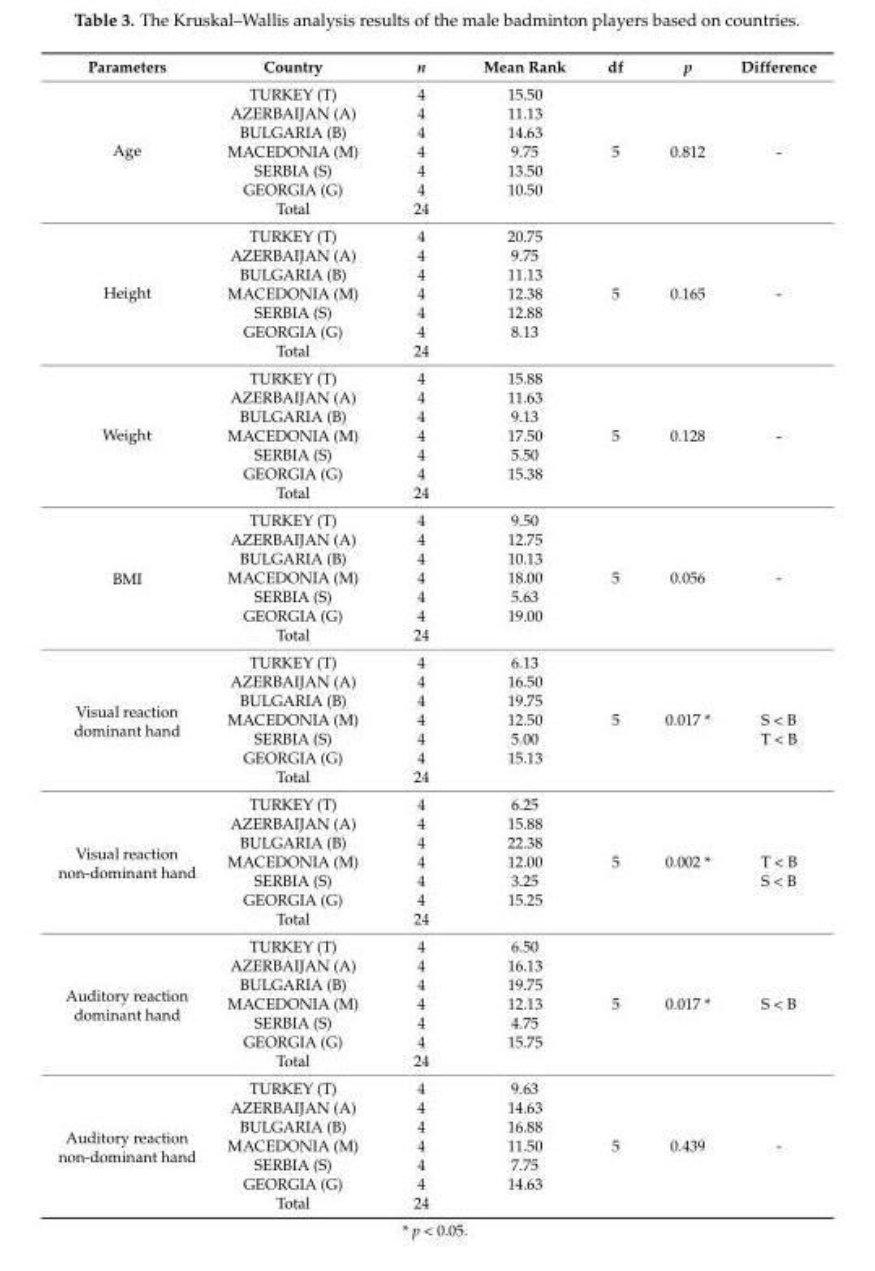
<table><thead><tr><td>Parameters</td><td>Country</td><td>n</td><td>Mean Rank</td><td>df</td><td>p</td><td>Difference</td></tr></thead><tbody><tr><td rowspan="7">Age</td><td>TURKEY (T)</td><td>4</td><td>15.50</td><td></td><td></td><td></td></tr><tr><td>AZERBAIJAN (A)</td><td>4</td><td>11.13</td><td></td><td></td><td></td></tr><tr><td>BULGARIA (B)</td><td>4</td><td>14.63</td><td></td><td></td><td></td></tr><tr><td>MACEDONIA (M)</td><td>4</td><td>9.75</td><td>5</td><td>0.812</td><td>-</td></tr><tr><td>SERBIA (S)</td><td>4</td><td>13.50</td><td></td><td></td><td></td></tr><tr><td>GEORGIA (G)</td><td>4</td><td>10.50</td><td></td><td></td><td></td></tr><tr><td>Total</td><td>24</td><td></td><td></td><td></td><td></td></tr><tr><td rowspan="7">Height</td><td>TURKEY (T)</td><td>4</td><td>20.75</td><td></td><td></td><td></td></tr><tr><td>AZERBAIJAN (A)</td><td>4</td><td>9.75</td><td></td><td></td><td></td></tr><tr><td>BULGARIA (B)</td><td>4</td><td>11.13</td><td></td><td></td><td></td></tr><tr><td>MACEDONIA (M)</td><td>4</td><td>12.38</td><td>5</td><td>0.165</td><td>-</td></tr><tr><td>SERBIA (S)</td><td>4</td><td>12.88</td><td></td><td></td><td></td></tr><tr><td>GEORGIA (G)</td><td>4</td><td>8.13</td><td></td><td></td><td></td></tr><tr><td>Total</td><td>24</td><td></td><td></td><td></td><td></td></tr><tr><td rowspan="7">Weight</td><td>TURKEY (T)</td><td>4</td><td>15.88</td><td></td><td></td><td></td></tr><tr><td>AZERBAIJAN (A)</td><td>4</td><td>11.63</td><td></td><td></td><td></td></tr><tr><td>BULGARIA (B)</td><td>4</td><td>9.13</td><td></td><td></td><td></td></tr><tr><td>MACEDONIA (M)</td><td>4</td><td>17.50</td><td>5</td><td>0.128</td><td>-</td></tr><tr><td>SERBIA (S)</td><td>4</td><td>5.50</td><td></td><td></td><td></td></tr><tr><td>GEORGIA (G)</td><td>4</td><td>15.38</td><td></td><td></td><td></td></tr><tr><td>Total</td><td>24</td><td></td><td></td><td></td><td></td></tr><tr><td rowspan="7">BMI</td><td>TURKEY (T)</td><td>4</td><td>9.50</td><td></td><td></td><td></td></tr><tr><td>AZERBAIJAN (A)</td><td>4</td><td>12.75</td><td></td><td></td><td></td></tr><tr><td>BULGARIA (B)</td><td>4</td><td>10.13</td><td></td><td></td><td></td></tr><tr><td>MACEDONIA (M)</td><td>4</td><td>18.00</td><td>5</td><td>0.056</td><td>-</td></tr><tr><td>SERBIA (S)</td><td>4</td><td>5.63</td><td></td><td></td><td></td></tr><tr><td>GEORGIA (G)</td><td>4</td><td>19.00</td><td></td><td></td><td></td></tr><tr><td>Total</td><td>24</td><td></td><td></td><td></td><td></td></tr><tr><td rowspan="7">Visual reaction dominant hand</td><td>TURKEY (T)</td><td>4</td><td>6.13</td><td></td><td></td><td></td></tr><tr><td>AZERBAIJAN (A)</td><td>4</td><td>16.50</td><td></td><td></td><td></td></tr><tr><td>BULGARIA (B)</td><td>4</td><td>19.75</td><td></td><td></td><td></td></tr><tr><td>MACEDONIA (M)</td><td>4</td><td>12.50</td><td>5</td><td>0.017 *</td><td>S &lt; B</td></tr><tr><td>SERBIA (S)</td><td>4</td><td>5.00</td><td></td><td></td><td>T &lt; B</td></tr><tr><td>GEORGIA (G)</td><td>4</td><td>15.13</td><td></td><td></td><td></td></tr><tr><td>Total</td><td>24</td><td></td><td></td><td></td><td></td></tr><tr><td rowspan="7">Visual reaction non-dominant hand</td><td>TURKEY (T)</td><td>4</td><td>6.25</td><td></td><td></td><td></td></tr><tr><td>AZERBAIJAN (A)</td><td>4</td><td>15.88</td><td></td><td></td><td></td></tr><tr><td>BULGARIA (B)</td><td>4</td><td>22.38</td><td></td><td></td><td></td></tr><tr><td>MACEDONIA (M)</td><td>4</td><td>12.00</td><td>5</td><td>0.002 *</td><td>T &lt; B</td></tr><tr><td>SERBIA (S)</td><td>4</td><td>3.25</td><td></td><td></td><td>S &lt; B</td></tr><tr><td>GEORGIA (G)</td><td>4</td><td>15.25</td><td></td><td></td><td></td></tr><tr><td>Total</td><td>24</td><td></td><td></td><td></td><td></td></tr><tr><td rowspan="7">Auditory reaction dominant hand</td><td>TURKEY (T)</td><td>4</td><td>6.50</td><td></td><td></td><td></td></tr><tr><td>AZERBAIJAN (A)</td><td>4</td><td>16.13</td><td></td><td></td><td></td></tr><tr><td>BULGARIA (B)</td><td>4</td><td>19.75</td><td></td><td></td><td></td></tr><tr><td>MACEDONIA (M)</td><td>4</td><td>12.13</td><td>5</td><td>0.017 *</td><td>S &lt; B</td></tr><tr><td>SERBIA (S)</td><td>4</td><td>4.75</td><td></td><td></td><td></td></tr><tr><td>GEORGIA (G)</td><td>4</td><td>15.75</td><td></td><td></td><td></td></tr><tr><td>Total</td><td>24</td><td></td><td></td><td></td><td></td></tr><tr><td rowspan="7">Auditory reaction non-dominant hand</td><td>TURKEY (T)</td><td>4</td><td>9.63</td><td></td><td></td><td></td></tr><tr><td>AZERBAIJAN (A)</td><td>4</td><td>14.63</td><td></td><td></td><td></td></tr><tr><td>BULGARIA (B)</td><td>4</td><td>16.88</td><td></td><td></td><td></td></tr><tr><td>MACEDONIA (M)</td><td>4</td><td>11.50</td><td>5</td><td>0.439</td><td>-</td></tr><tr><td>SERBIA (S)</td><td>4</td><td>7.75</td><td></td><td></td><td></td></tr><tr><td>GEORGIA (G)</td><td>4</td><td>14.63</td><td></td><td></td><td></td></tr><tr><td>Total</td><td>24</td><td></td><td></td><td></td><td></td></tr></tbody></table>